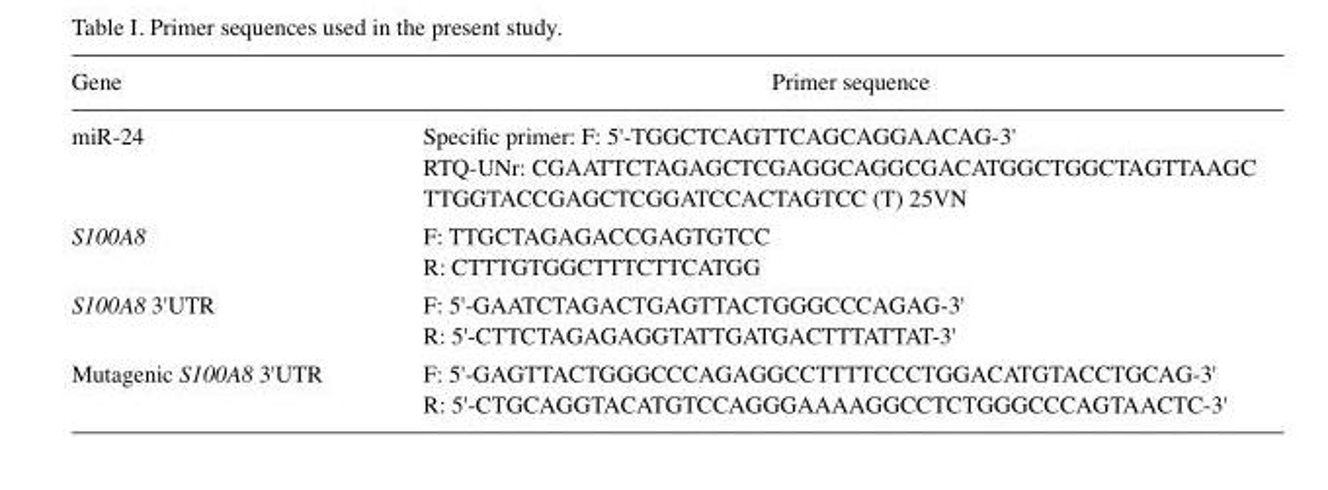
<table><thead><tr><td>Gene</td><td>Primer sequence</td></tr></thead><tbody><tr><td>miR-24</td><td>Specific primer: F: 5&#x27;-TGGCTCAGTTCAGCAGGAACAG-3&#x27; RTQ-UNr: CGAATTCTAGAGCTCGAGGCAGGCGACATGGCTGGCTAGTTAAGC TTGGTACCGAGCTCGGATCCACTAGTCC (T) 25VN</td></tr><tr><td>S100A8</td><td>F: TTGCTAGAGACCGAGTGTCC R: CTTTGTGGCTTTCTTCATGG</td></tr><tr><td>S100A8 3&#x27;UTR</td><td>F: 5&#x27;-GAATCTAGACTGAGTTACTGGGCCCAGAG-3&#x27; R: 5&#x27;-CTTCTAGAGAGGTATTGATGACTTTATTAT-3&#x27;</td></tr><tr><td>Mutagenic S100A8 3&#x27;UTR</td><td>F: 5&#x27;-GAGTTACTGGGCCCAGAGGCCTTTTCCCTGGACATGTACCTGCAG-3&#x27; R: 5&#x27;-CTGCAGGTACATGTCCAGGGAAAAGGCCTCTGGGCCCAGTAACTC-3&#x27;</td></tr></tbody></table>